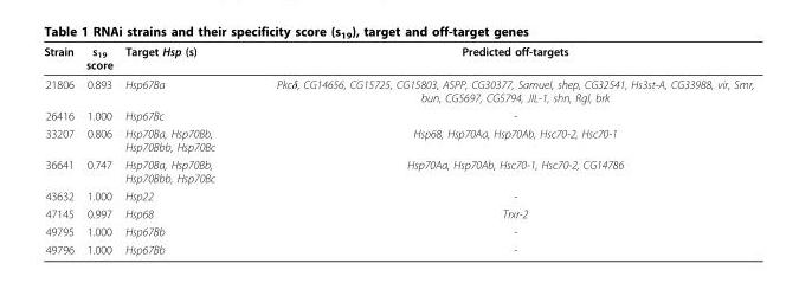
<table><thead><tr><td>Strain</td><td>s<sub>19</sub> score</td><td>Target Hsp (s)</td><td>Predicted off-targets</td></tr></thead><tbody><tr><td>21806</td><td>0.893</td><td>Hsp67Ba</td><td>Pkcδ, CG14656, CG15725, CG15803, ASPP, CG30377, Samuel, shep, CG32541, Hs3st-A, CG33988, vir, Smr, bun, CG5697, CG5794, JIL-1, shn, Rgl, brk</td></tr><tr><td>26416</td><td>1.000</td><td>Hsp67Bc</td><td>-</td></tr><tr><td>33207</td><td>0.806</td><td>Hsp70Ba, Hsp70Bb, Hsp70Bbb, Hsp70Bc</td><td>Hsp68, Hsp70Aa, Hsp70Ab, Hsc70-2, Hsc70-1</td></tr><tr><td>36641</td><td>0.747</td><td>Hsp70Ba, Hsp70Bb, Hsp70Bbb, Hsp70Bc</td><td>Hsp70Aa, Hsp70Ab, Hsc70-1, Hsc70-2, CG14786</td></tr><tr><td>43632</td><td>1.000</td><td>Hsp22</td><td>-</td></tr><tr><td>47145</td><td>0.997</td><td>Hsp68</td><td>Trxr-2</td></tr><tr><td>49795</td><td>1.000</td><td>Hsp67Bb</td><td>-</td></tr><tr><td>49796</td><td>1.000</td><td>Hsp67Bb</td><td>-</td></tr></tbody></table>